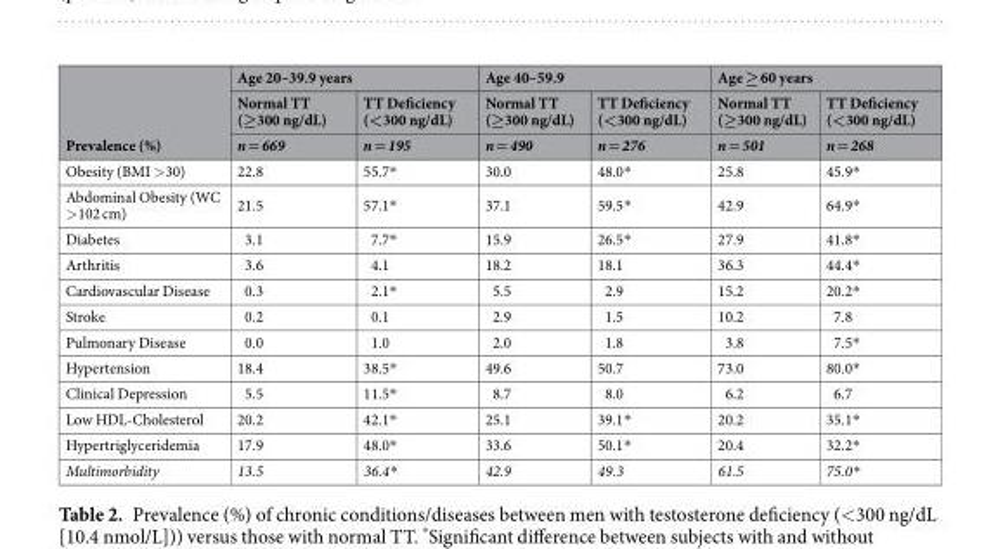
<table><thead><tr><td rowspan="3">Prevalence (%)</td><td colspan="2">Age 20–39.9 years</td><td colspan="2">Age 40–59.9</td><td colspan="2">Age ≥ 60 years</td></tr><tr><td rowspan="2">Normal TT (≥300 ng/dL) n = 669</td><td rowspan="2">TT Deficiency (&lt;300 ng/dL) n = 195</td><td rowspan="2">Normal TT (≥300 ng/dL) n = 490</td><td rowspan="2">TT Deficiency (&lt;300 ng/dL) n = 276</td><td rowspan="2">Normal TT (≥300 ng/dL) n = 501</td><td rowspan="2">TT Deficiency (&lt;300 ng/dL) n = 268</td></tr><tr></tr></thead><tbody><tr><td>Obesity (BMI &gt;30)</td><td>22.8</td><td>55.7*</td><td>30.0</td><td>48.0*</td><td>25.8</td><td>45.9*</td></tr><tr><td>Abdominal Obesity (WC &gt;102 cm)</td><td>21.5</td><td>57.1*</td><td>37.1</td><td>59.5*</td><td>42.9</td><td>64.9*</td></tr><tr><td>Diabetes</td><td>3.1</td><td>7.7*</td><td>15.9</td><td>26.5*</td><td>27.9</td><td>41.8*</td></tr><tr><td>Arthritis</td><td>3.6</td><td>4.1</td><td>18.2</td><td>18.1</td><td>36.3</td><td>44.4*</td></tr><tr><td>Cardiovascular Disease</td><td>0.3</td><td>2.1*</td><td>5.5</td><td>2.9</td><td>15.2</td><td>20.2*</td></tr><tr><td>Stroke</td><td>0.2</td><td>0.1</td><td>2.9</td><td>1.5</td><td>10.2</td><td>7.8</td></tr><tr><td>Pulmonary Disease</td><td>0.0</td><td>1.0</td><td>2.0</td><td>1.8</td><td>3.8</td><td>7.5*</td></tr><tr><td>Hypertension</td><td>18.4</td><td>38.5*</td><td>49.6</td><td>50.7</td><td>73.0</td><td>80.0*</td></tr><tr><td>Clinical Depression</td><td>5.5</td><td>11.5*</td><td>8.7</td><td>8.0</td><td>6.2</td><td>6.7</td></tr><tr><td>Low HDL-Cholesterol</td><td>20.2</td><td>42.1*</td><td>25.1</td><td>39.1*</td><td>20.2</td><td>35.1*</td></tr><tr><td>Hypertriglyceridemia</td><td>17.9</td><td>48.0*</td><td>33.6</td><td>50.1*</td><td>20.4</td><td>32.2*</td></tr><tr><td>Multimorbidity</td><td>13.5</td><td>36.4*</td><td>42.9</td><td>49.3</td><td>61.5</td><td>75.0*</td></tr></tbody></table>